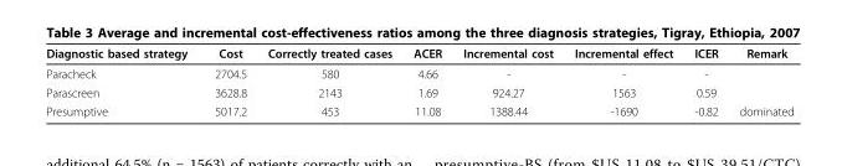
<table><thead><tr><td>Diagnostic based strategy</td><td>Cost</td><td>Correctly treated cases</td><td>ACER</td><td>Incremental cost</td><td>Incremental effect</td><td>ICER</td><td>Remark</td></tr></thead><tbody><tr><td>Paracheck</td><td>2704.5</td><td>580</td><td>4.66</td><td>-</td><td>-</td><td>-</td><td></td></tr><tr><td>Parascreen</td><td>3628.8</td><td>2143</td><td>1.69</td><td>924.27</td><td>1563</td><td>0.59</td><td></td></tr><tr><td>Presumptive</td><td>5017.2</td><td>453</td><td>11.08</td><td>1388.44</td><td>-1690</td><td>-0.82</td><td>dominated</td></tr></tbody></table>